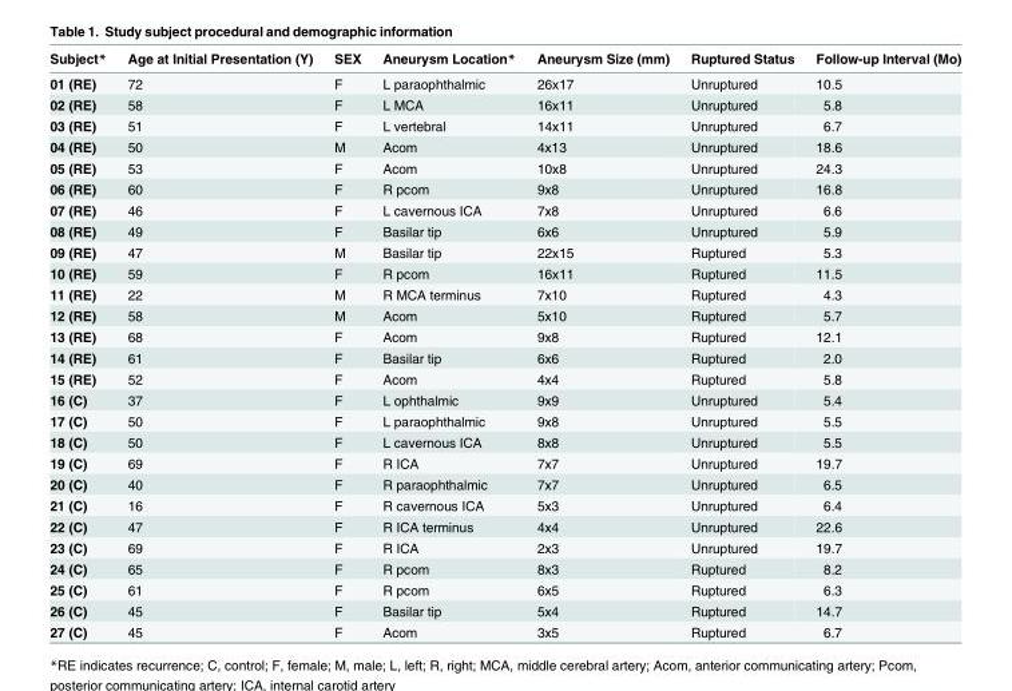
<table><thead><tr><td>Subject*</td><td>Age at Initial Presentation (Y)</td><td>SEX</td><td>Aneurysm Location*</td><td>Aneurysm Size (mm)</td><td>Ruptured Status</td><td>Follow-up Interval (Mo)</td></tr></thead><tbody><tr><td>01 (RE)</td><td>72</td><td>F</td><td>L paraophthalmic</td><td>26x17</td><td>Unruptured</td><td>10.5</td></tr><tr><td>02 (RE)</td><td>58</td><td>F</td><td>L MCA</td><td>16x11</td><td>Unruptured</td><td>5.8</td></tr><tr><td>03 (RE)</td><td>51</td><td>F</td><td>L vertebral</td><td>14x11</td><td>Unruptured</td><td>6.7</td></tr><tr><td>04 (RE)</td><td>50</td><td>M</td><td>Acom</td><td>4x13</td><td>Unruptured</td><td>18.6</td></tr><tr><td>05 (RE)</td><td>53</td><td>F</td><td>Acom</td><td>10x8</td><td>Unruptured</td><td>24.3</td></tr><tr><td>06 (RE)</td><td>60</td><td>F</td><td>R pcom</td><td>9x8</td><td>Unruptured</td><td>16.8</td></tr><tr><td>07 (RE)</td><td>46</td><td>F</td><td>L cavernous ICA</td><td>7x8</td><td>Unruptured</td><td>6.6</td></tr><tr><td>08 (RE)</td><td>49</td><td>F</td><td>Basilar tip</td><td>6x6</td><td>Unruptured</td><td>5.9</td></tr><tr><td>09 (RE)</td><td>47</td><td>M</td><td>Basilar tip</td><td>22x15</td><td>Ruptured</td><td>5.3</td></tr><tr><td>10 (RE)</td><td>59</td><td>F</td><td>R pcom</td><td>16x11</td><td>Ruptured</td><td>11.5</td></tr><tr><td>11 (RE)</td><td>22</td><td>M</td><td>R MCA terminus</td><td>7x10</td><td>Ruptured</td><td>4.3</td></tr><tr><td>12 (RE)</td><td>58</td><td>M</td><td>Acom</td><td>5x10</td><td>Ruptured</td><td>5.7</td></tr><tr><td>13 (RE)</td><td>68</td><td>F</td><td>Acom</td><td>9x8</td><td>Ruptured</td><td>12.1</td></tr><tr><td>14 (RE)</td><td>61</td><td>F</td><td>Basilar tip</td><td>6x6</td><td>Ruptured</td><td>2.0</td></tr><tr><td>15 (RE)</td><td>52</td><td>F</td><td>Acom</td><td>4x4</td><td>Ruptured</td><td>5.8</td></tr><tr><td>16 (C)</td><td>37</td><td>F</td><td>L ophthalmic</td><td>9x9</td><td>Unruptured</td><td>5.4</td></tr><tr><td>17 (C)</td><td>50</td><td>F</td><td>L paraophthalmic</td><td>9x8</td><td>Unruptured</td><td>5.5</td></tr><tr><td>18 (C)</td><td>50</td><td>F</td><td>L cavernous ICA</td><td>8x8</td><td>Unruptured</td><td>5.5</td></tr><tr><td>19 (C)</td><td>69</td><td>F</td><td>R ICA</td><td>7x7</td><td>Unruptured</td><td>19.7</td></tr><tr><td>20 (C)</td><td>40</td><td>F</td><td>R paraophthalmic</td><td>7x7</td><td>Unruptured</td><td>6.5</td></tr><tr><td>21 (C)</td><td>16</td><td>F</td><td>R cavernous ICA</td><td>5x3</td><td>Unruptured</td><td>6.4</td></tr><tr><td>22 (C)</td><td>47</td><td>F</td><td>R ICA terminus</td><td>4x4</td><td>Unruptured</td><td>22.6</td></tr><tr><td>23 (C)</td><td>69</td><td>F</td><td>R ICA</td><td>2x3</td><td>Unruptured</td><td>19.7</td></tr><tr><td>24 (C)</td><td>65</td><td>F</td><td>R pcom</td><td>8x3</td><td>Ruptured</td><td>8.2</td></tr><tr><td>25 (C)</td><td>61</td><td>F</td><td>R pcom</td><td>6x5</td><td>Ruptured</td><td>6.3</td></tr><tr><td>26 (C)</td><td>45</td><td>F</td><td>Basilar tip</td><td>5x4</td><td>Ruptured</td><td>14.7</td></tr><tr><td>27 (C)</td><td>45</td><td>F</td><td>Acom</td><td>3x5</td><td>Ruptured</td><td>6.7</td></tr></tbody></table>